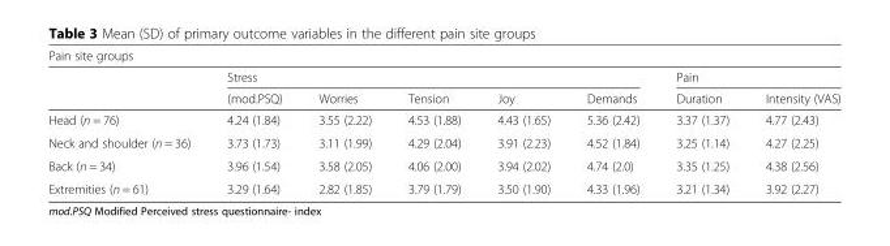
<table><thead><tr><td colspan="8">Pain site groups</td></tr><tr><td rowspan="2"></td><td colspan="5">Stress</td><td colspan="2">Pain</td></tr><tr><td>(mod.PSQ)</td><td>Worries</td><td>Tension</td><td>Joy</td><td>Demands</td><td>Duration</td><td>Intensity (VAS)</td></tr></thead><tbody><tr><td>Head (n = 76)</td><td>4.24 (1.84)</td><td>3.55 (2.22)</td><td>4.53 (1.88)</td><td>4.43 (1.65)</td><td>5.36 (2.42)</td><td>3.37 (1.37)</td><td>4.77 (2.43)</td></tr><tr><td>Neck and shoulder (n = 36)</td><td>3.73 (1.73)</td><td>3.11 (1.99)</td><td>4.29 (2.04)</td><td>3.91 (2.23)</td><td>4.52 (1.84)</td><td>3.25 (1.14)</td><td>4.27 (2.25)</td></tr><tr><td>Back (n = 34)</td><td>3.96 (1.54)</td><td>3.58 (2.05)</td><td>4.06 (2.00)</td><td>3.94 (2.02)</td><td>4.74 (2.0)</td><td>3.35 (1.25)</td><td>4.38 (2.56)</td></tr><tr><td>Extremities (n = 61)</td><td>3.29 (1.64)</td><td>2.82 (1.85)</td><td>3.79 (1.79)</td><td>3.50 (1.90)</td><td>4.33 (1.96)</td><td>3.21 (1.34)</td><td>3.92 (2.27)</td></tr></tbody></table>